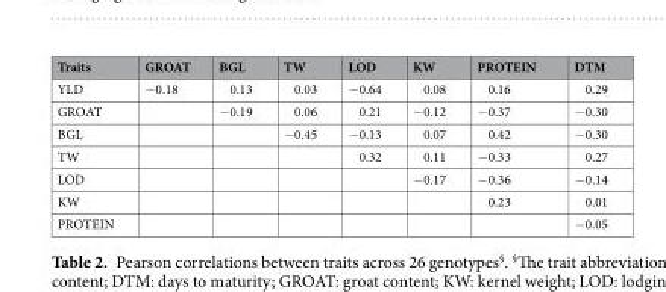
<table><thead><tr><td>Traits</td><td>GROAT</td><td>BGL</td><td>TW</td><td>LOD</td><td>KW</td><td>PROTEIN</td><td>DTM</td></tr></thead><tbody><tr><td>YLD</td><td>−0.18</td><td>0.13</td><td>0.03</td><td>−0.64</td><td>0.08</td><td>0.16</td><td>0.29</td></tr><tr><td>GROAT</td><td></td><td>−0.19</td><td>0.06</td><td>0.21</td><td>−0.12</td><td>−0.37</td><td>−0.30</td></tr><tr><td>BGL</td><td></td><td></td><td>−0.45</td><td>−0.13</td><td>0.07</td><td>0.42</td><td>−0.30</td></tr><tr><td>TW</td><td></td><td></td><td></td><td>0.32</td><td>0.11</td><td>−0.33</td><td>0.27</td></tr><tr><td>LOD</td><td></td><td></td><td></td><td></td><td>−0.17</td><td>−0.36</td><td>−0.14</td></tr><tr><td>KW</td><td></td><td></td><td></td><td></td><td></td><td>0.23</td><td>0.01</td></tr><tr><td>PROTEIN</td><td></td><td></td><td></td><td></td><td></td><td></td><td>−0.05</td></tr></tbody></table>